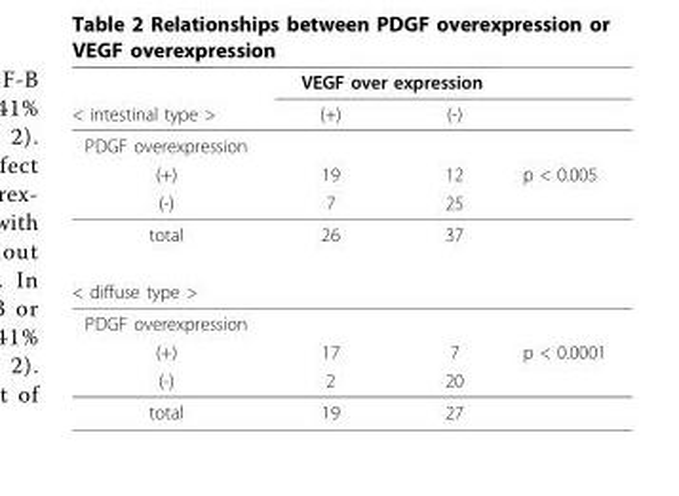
<table><thead><tr><td rowspan="2">&lt; intestinal type &gt;</td><td colspan="2">VEGF over expression</td><td rowspan="2"></td></tr><tr><td>(+)</td><td>(-)</td></tr></thead><tbody><tr><td colspan="4">PDGF overexpression</td></tr><tr><td>(+)</td><td>19</td><td>12</td><td>p &lt; 0.005</td></tr><tr><td>(-)</td><td>7</td><td>25</td><td></td></tr><tr><td>total</td><td>26</td><td>37</td><td></td></tr><tr><td colspan="4">&lt; diffuse type &gt;</td></tr><tr><td colspan="4">PDGF overexpression</td></tr><tr><td>(+)</td><td>17</td><td>7</td><td>p &lt; 0.0001</td></tr><tr><td>(-)</td><td>2</td><td>20</td><td></td></tr><tr><td>total</td><td>19</td><td>27</td><td></td></tr></tbody></table>